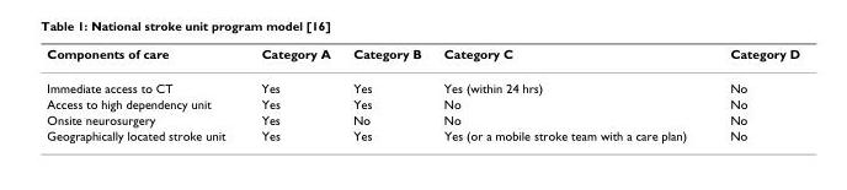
<table><thead><tr><td>Components of care</td><td>Category A</td><td>Category B</td><td>Category C</td><td>Category D</td></tr></thead><tbody><tr><td>Immediate access to CT</td><td>Yes</td><td>Yes</td><td>Yes (within 24 hrs)</td><td>No</td></tr><tr><td>Access to high dependency unit</td><td>Yes</td><td>Yes</td><td>No</td><td>No</td></tr><tr><td>Onsite neurosurgery</td><td>Yes</td><td>No</td><td>No</td><td>No</td></tr><tr><td>Geographically located stroke unit</td><td>Yes</td><td>Yes</td><td>Yes (or a mobile stroke team with a care plan)</td><td>No</td></tr></tbody></table>